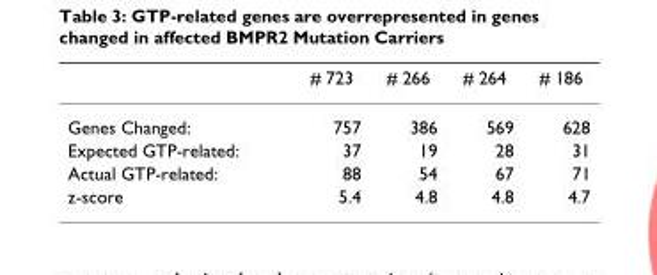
<table><thead><tr><td></td><td># 723</td><td># 266</td><td># 264</td><td># 186</td></tr></thead><tbody><tr><td>Genes Changed:</td><td>757</td><td>386</td><td>569</td><td>628</td></tr><tr><td>Expected GTP-related:</td><td>37</td><td>19</td><td>28</td><td>31</td></tr><tr><td>Actual GTP-related:</td><td>88</td><td>54</td><td>67</td><td>71</td></tr><tr><td>z-score</td><td>5.4</td><td>4.8</td><td>4.8</td><td>4.7</td></tr></tbody></table>